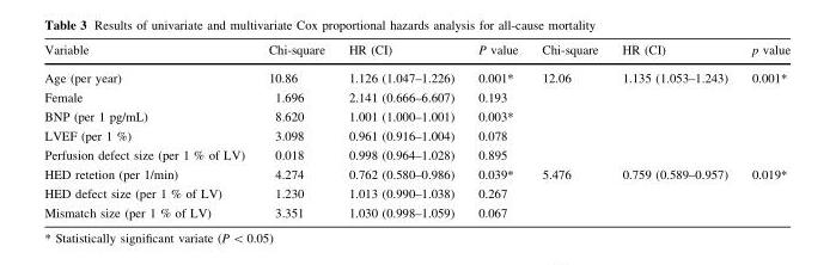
<table><thead><tr><td>Variable</td><td>Chi-square</td><td>HR (CI)</td><td>P value</td><td>Chi-square</td><td>HR (CI)</td><td>p value</td></tr></thead><tbody><tr><td>Age (per year)</td><td>10.86</td><td>1.126 (1.047–1.226)</td><td>0.001*</td><td>12.06</td><td>1.135 (1.053–1.243)</td><td>0.001*</td></tr><tr><td>Female</td><td>1.696</td><td>2.141 (0.666–6.607)</td><td>0.193</td><td></td><td></td><td></td></tr><tr><td>BNP (per 1 pg/mL)</td><td>8.620</td><td>1.001 (1.000–1.001)</td><td>0.003*</td><td></td><td></td><td></td></tr><tr><td>LVEF (per 1 %)</td><td>3.098</td><td>0.961 (0.916–1.004)</td><td>0.078</td><td></td><td></td><td></td></tr><tr><td>Perfusion defect size (per 1 % of LV)</td><td>0.018</td><td>0.998 (0.964–1.028)</td><td>0.895</td><td></td><td></td><td></td></tr><tr><td>HED retetion (per 1/min)</td><td>4.274</td><td>0.762 (0.580–0.986)</td><td>0.039*</td><td>5.476</td><td>0.759 (0.589–0.957)</td><td>0.019*</td></tr><tr><td>HED defect size (per 1 % of LV)</td><td>1.230</td><td>1.013 (0.990–1.038)</td><td>0.267</td><td></td><td></td><td></td></tr><tr><td>Mismatch size (per 1 % of LV)</td><td>3.351</td><td>1.030 (0.998–1.059)</td><td>0.067</td><td></td><td></td><td></td></tr></tbody></table>